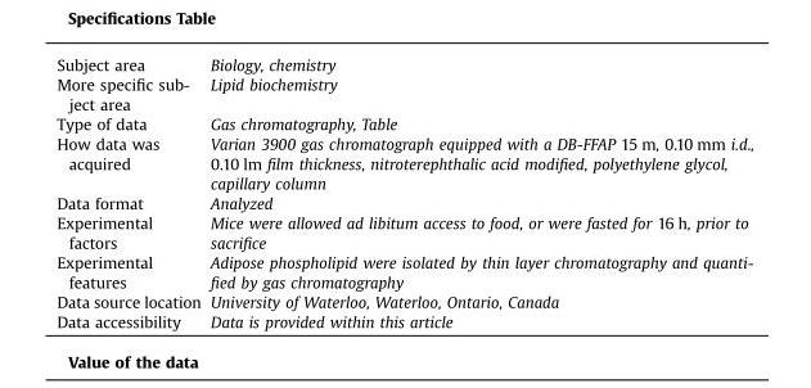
<table><tbody><tr><td>Subject area</td><td>Biology, chemistry</td></tr><tr><td>More specific sub- ject area</td><td>Lipid biochemistry</td></tr><tr><td>Type of data</td><td>Gas chromatography, Table</td></tr><tr><td>How data was acquired</td><td>Varian 3900 gas chromatograph equipped with a DB-FFAP 15 m, 0.10 mm i.d., 0.10 lm film thickness, nitroterephthalic acid modified, polyethylene glycol, capillary column</td></tr><tr><td>Data format</td><td>Analyzed</td></tr><tr><td>Experimental factors</td><td>Mice were allowed ad libitum access to food, or were fasted for 16 h, prior to sacrifice</td></tr><tr><td>Experimental features</td><td>Adipose phospholipid were isolated by thin layer chromatography and quanti- fied by gas chromatography</td></tr><tr><td>Data source location</td><td>University of Waterloo, Waterloo, Ontario, Canada</td></tr><tr><td>Data accessibility</td><td>Data is provided within this article</td></tr></tbody></table>